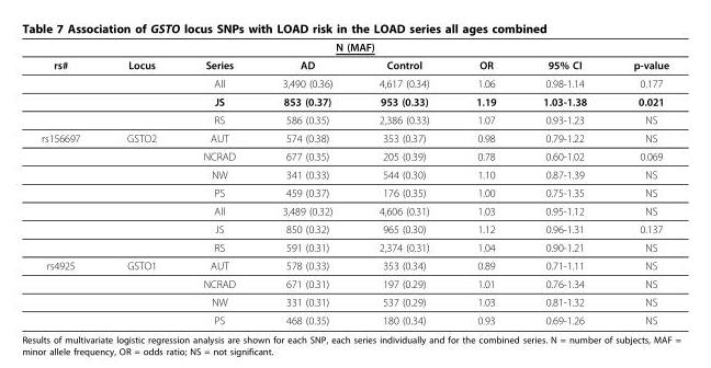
<table><thead><tr><td colspan="8">N (MAF)</td></tr><tr><td>rs#</td><td>Locus</td><td>Series</td><td>AD</td><td>Control</td><td>OR</td><td>95% CI</td><td>p-value</td></tr></thead><tbody><tr><td></td><td></td><td>All</td><td>3,490 (0.36)</td><td>4,617 (0.34)</td><td>1.06</td><td>0.98-1.14</td><td>0.177</td></tr><tr><td></td><td></td><td>JS</td><td>853 (0.37)</td><td>953 (0.33)</td><td>1.19</td><td>1.03-1.38</td><td>0.021</td></tr><tr><td></td><td></td><td>RS</td><td>586 (0.35)</td><td>2,386 (0.33)</td><td>1.07</td><td>0.93-1.23</td><td>NS</td></tr><tr><td rowspan="7">rs156697</td><td>GSTO2</td><td>AUT</td><td>574 (0.38)</td><td>353 (0.37)</td><td>0.98</td><td>0.79-1.22</td><td>NS</td></tr><tr><td></td><td>NCRAD</td><td>677 (0.35)</td><td>205 (0.39)</td><td>0.78</td><td>0.60-1.02</td><td>0.069</td></tr><tr><td></td><td>NW</td><td>341 (0.33)</td><td>544 (0.30)</td><td>1.10</td><td>0.87-1.39</td><td>NS</td></tr><tr><td></td><td>PS</td><td>459 (0.37)</td><td>176 (0.35)</td><td>1.00</td><td>0.75-1.35</td><td>NS</td></tr><tr><td></td><td>All</td><td>3,489 (0.32)</td><td>4,606 (0.31)</td><td>1.03</td><td>0.95-1.12</td><td>NS</td></tr><tr><td></td><td>JS</td><td>850 (0.32)</td><td>965 (0.30)</td><td>1.12</td><td>0.96-1.31</td><td>0.137</td></tr><tr><td></td><td>RS</td><td>591 (0.31)</td><td>2,374 (0.31)</td><td>1.04</td><td>0.90-1.21</td><td>NS</td></tr><tr><td rowspan="4">rs4925</td><td>GSTO1</td><td>AUT</td><td>578 (0.33)</td><td>353 (0.34)</td><td>0.89</td><td>0.71-1.11</td><td>NS</td></tr><tr><td></td><td>NCRAD</td><td>671 (0.31)</td><td>197 (0.29)</td><td>1.01</td><td>0.76-1.34</td><td>NS</td></tr><tr><td></td><td>NW</td><td>331 (0.31)</td><td>537 (0.29)</td><td>1.03</td><td>0.81-1.32</td><td>NS</td></tr><tr><td></td><td>PS</td><td>468 (0.35)</td><td>180 (0.34)</td><td>0.93</td><td>0.69-1.26</td><td>NS</td></tr></tbody></table>